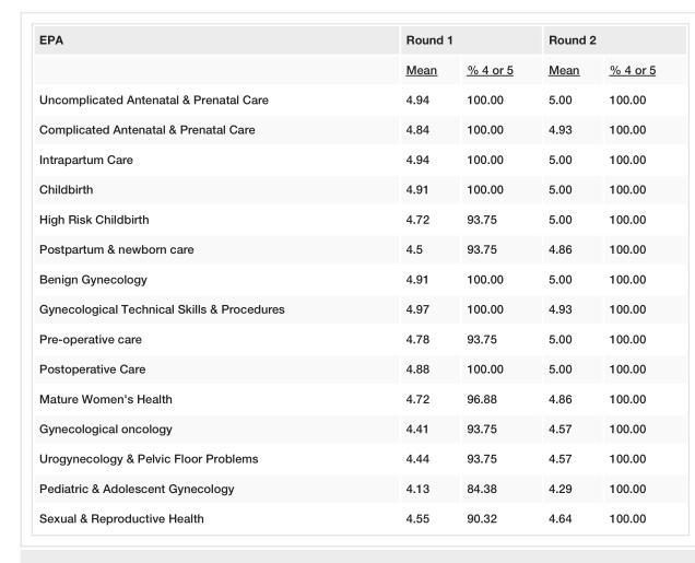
<table><tbody><tr><td rowspan="2">EPA</td><td colspan="2">Round 1</td><td colspan="2">Round 2</td></tr><tr><td>Mean</td><td>% 4 or 5</td><td>Mean</td><td>% 4 or 5</td></tr><tr><td>Uncomplicated Antenatal &amp; Prenatal Care</td><td>4.94</td><td>100.00</td><td>5.00</td><td>100.00</td></tr><tr><td>Complicated Antenatal &amp; Prenatal Care</td><td>4.84</td><td>100.00</td><td>4.93</td><td>100.00</td></tr><tr><td>Intrapartum Care</td><td>4.94</td><td>100.00</td><td>5.00</td><td>100.00</td></tr><tr><td>Childbirth</td><td>4.91</td><td>100.00</td><td>5.00</td><td>100.00</td></tr><tr><td>High Risk Childbirth</td><td>4.72</td><td>93.75</td><td>5.00</td><td>100.00</td></tr><tr><td>Postpartum &amp; newborn care</td><td>4.5</td><td>93.75</td><td>4.86</td><td>100.00</td></tr><tr><td>Benign Gynecology</td><td>4.91</td><td>100.00</td><td>5.00</td><td>100.00</td></tr><tr><td>Gynecological Technical Skills &amp; Procedures</td><td>4.97</td><td>100.00</td><td>4.93</td><td>100.00</td></tr><tr><td>Pre-operative care</td><td>4.78</td><td>93.75</td><td>5.00</td><td>100.00</td></tr><tr><td>Postoperative Care</td><td>4.88</td><td>100.00</td><td>5.00</td><td>100.00</td></tr><tr><td>Mature Women&#x27;s Health</td><td>4.72</td><td>96.88</td><td>4.86</td><td>100.00</td></tr><tr><td>Gynecological oncology</td><td>4.41</td><td>93.75</td><td>4.57</td><td>100.00</td></tr><tr><td>Urogynecology &amp; Pelvic Floor Problems</td><td>4.44</td><td>93.75</td><td>4.57</td><td>100.00</td></tr><tr><td>Pediatric &amp; Adolescent Gynecology</td><td>4.13</td><td>84.38</td><td>4.29</td><td>100.00</td></tr><tr><td>Sexual &amp; Reproductive Health</td><td>4.55</td><td>90.32</td><td>4.64</td><td>100.00</td></tr></tbody></table>